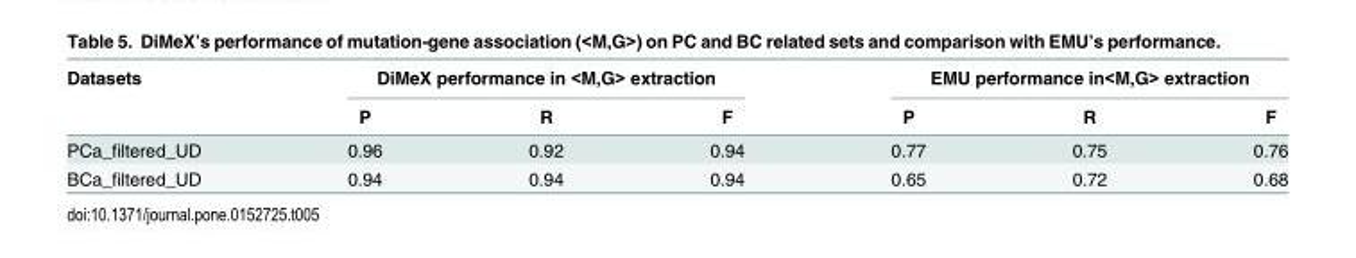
<table><thead><tr><td rowspan="2">Datasets</td><td colspan="3">DiMeX performance in &lt;M,G&gt; extraction</td><td colspan="3">EMU performance in&lt;M,G&gt; extraction</td></tr><tr><td>P</td><td>R</td><td>F</td><td>P</td><td>R</td><td>F</td></tr></thead><tbody><tr><td>PCa_filtered_UD</td><td>0.96</td><td>0.92</td><td>0.94</td><td>0.77</td><td>0.75</td><td>0.76</td></tr><tr><td>BCa_filtered_UD</td><td>0.94</td><td>0.94</td><td>0.94</td><td>0.65</td><td>0.72</td><td>0.68</td></tr></tbody></table>